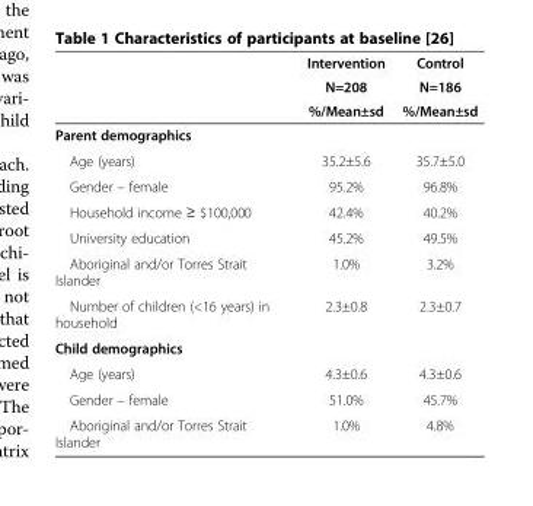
<table><thead><tr><td rowspan="3"></td><td rowspan="3">Intervention N=208 %/Mean±sd</td><td rowspan="3">Control N=186 %/Mean±sd</td></tr><tr></tr><tr></tr></thead><tbody><tr><td colspan="3">Parent demographics</td></tr><tr><td>Age (years)</td><td>35.2±5.6</td><td>35.7±5.0</td></tr><tr><td>Gender – female</td><td>95.2%</td><td>96.8%</td></tr><tr><td>Household income ≥ $100,000</td><td>42.4%</td><td>40.2%</td></tr><tr><td>University education</td><td>45.2%</td><td>49.5%</td></tr><tr><td>Aboriginal and/or Torres Strait Islander</td><td>1.0%</td><td>3.2%</td></tr><tr><td>Number of children (&lt;16 years) in household</td><td>2.3±0.8</td><td>2.3±0.7</td></tr><tr><td colspan="3">Child demographics</td></tr><tr><td>Age (years)</td><td>4.3±0.6</td><td>4.3±0.6</td></tr><tr><td>Gender – female</td><td>51.0%</td><td>45.7%</td></tr><tr><td>Aboriginal and/or Torres Strait Islander</td><td>1.0%</td><td>4.8%</td></tr></tbody></table>